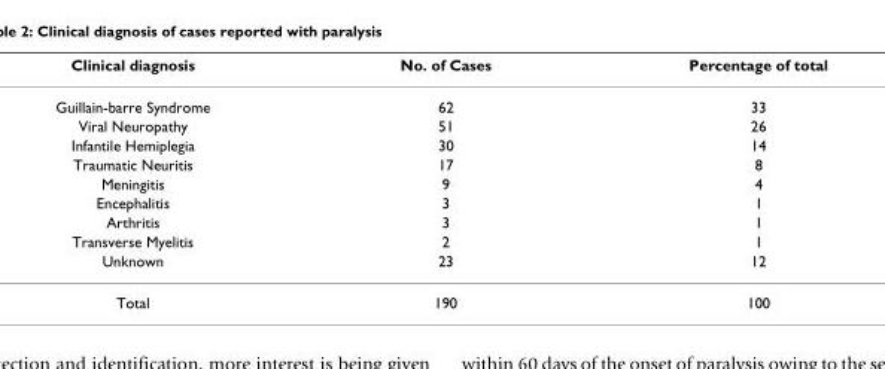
<table><thead><tr><td>Clinical diagnosis</td><td>No. of Cases</td><td>Percentage of total</td></tr></thead><tbody><tr><td>Guillain-barre Syndrome</td><td>62</td><td>33</td></tr><tr><td>Viral Neuropathy</td><td>51</td><td>26</td></tr><tr><td>Infantile Hemiplegia</td><td>30</td><td>14</td></tr><tr><td>Traumatic Neuritis</td><td>17</td><td>8</td></tr><tr><td>Meningitis</td><td>9</td><td>4</td></tr><tr><td>Encephalitis</td><td>3</td><td>1</td></tr><tr><td>Arthritis</td><td>3</td><td>1</td></tr><tr><td>Transverse Myelitis</td><td>2</td><td>1</td></tr><tr><td>Unknown</td><td>23</td><td>12</td></tr><tr><td>Total</td><td>190</td><td>100</td></tr></tbody></table>